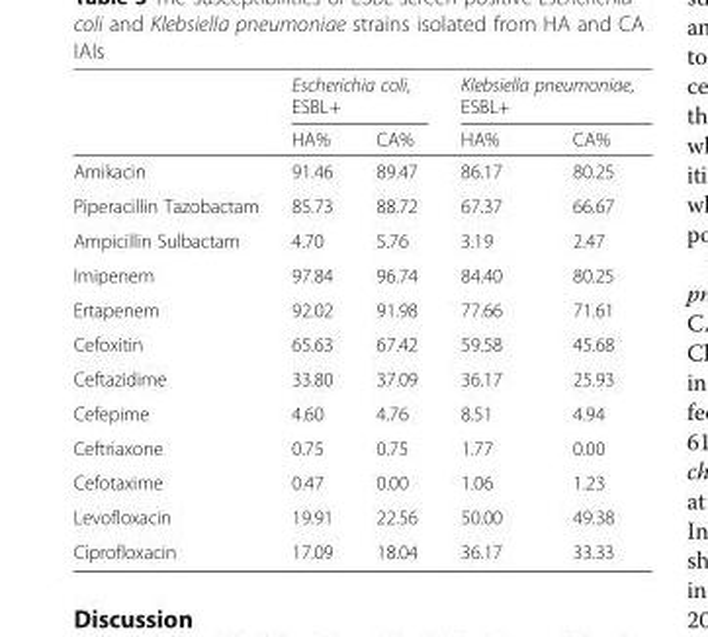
<table><thead><tr><td rowspan="2"></td><td colspan="2">Escherichia coli, ESBL+</td><td colspan="2">Klebsiella pneumoniae, ESBL+</td></tr><tr><td>HA%</td><td>CA%</td><td>HA%</td><td>CA%</td></tr></thead><tbody><tr><td>Amikacin</td><td>91.46</td><td>89.47</td><td>86.17</td><td>80.25</td></tr><tr><td>Piperacillin Tazobactam</td><td>85.73</td><td>88.72</td><td>67.37</td><td>66.67</td></tr><tr><td>Ampicillin Sulbactam</td><td>4.70</td><td>5.76</td><td>3.19</td><td>2.47</td></tr><tr><td>Imipenem</td><td>97.84</td><td>96.74</td><td>84.40</td><td>80.25</td></tr><tr><td>Ertapenem</td><td>92.02</td><td>91.98</td><td>77.66</td><td>71.61</td></tr><tr><td>Cefoxitin</td><td>65.63</td><td>67.42</td><td>59.58</td><td>45.68</td></tr><tr><td>Ceftazidime</td><td>33.80</td><td>37.09</td><td>36.17</td><td>25.93</td></tr><tr><td>Cefepime</td><td>4.60</td><td>4.76</td><td>8.51</td><td>4.94</td></tr><tr><td>Ceftriaxone</td><td>0.75</td><td>0.75</td><td>1.77</td><td>0.00</td></tr><tr><td>Cefotaxime</td><td>0.47</td><td>0.00</td><td>1.06</td><td>1.23</td></tr><tr><td>Levofloxacin</td><td>19.91</td><td>22.56</td><td>50.00</td><td>49.38</td></tr><tr><td>Ciprofloxacin</td><td>17.09</td><td>18.04</td><td>36.17</td><td>33.33</td></tr></tbody></table>